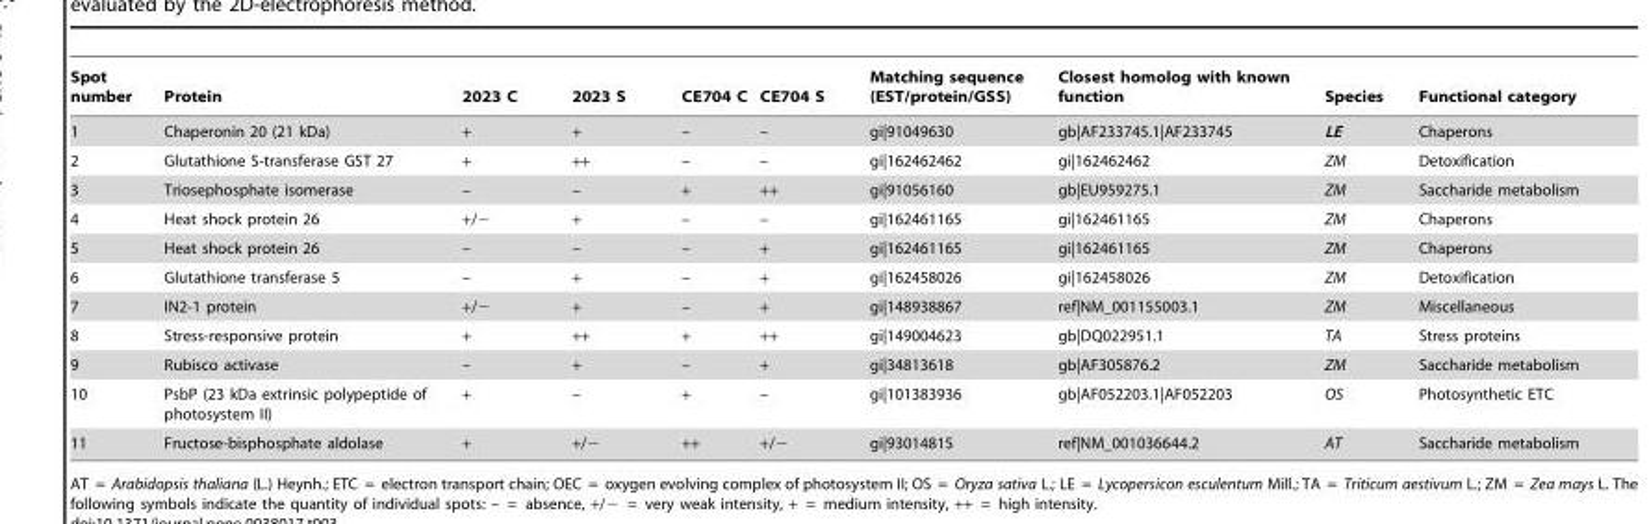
<table><thead><tr><td>Spot number</td><td>Protein</td><td>2023 C</td><td>2023 S</td><td>CE704 C</td><td>CE704 S</td><td>Matching sequence (EST/protein/GSS)</td><td>Closest homolog with known function</td><td>Species</td><td>Functional category</td></tr></thead><tbody><tr><td>1</td><td>Chaperonin 20 (21 kDa)</td><td>+</td><td>+</td><td>–</td><td>–</td><td>gi|91049630</td><td>gb|AF233745.1|AF233745</td><td>LE</td><td>Chaperons</td></tr><tr><td>2</td><td>Glutathione S-transferase GST 27</td><td>+</td><td>++</td><td>–</td><td>–</td><td>gi|162462462</td><td>gi|162462462</td><td>ZM</td><td>Detoxification</td></tr><tr><td>3</td><td>Triosephosphate isomerase</td><td>–</td><td>–</td><td>+</td><td>++</td><td>gi|91056160</td><td>gb|EU959275.1</td><td>ZM</td><td>Saccharide metabolism</td></tr><tr><td>4</td><td>Heat shock protein 26</td><td>+/−</td><td>+</td><td>–</td><td>–</td><td>gi|162461165</td><td>gi|162461165</td><td>ZM</td><td>Chaperons</td></tr><tr><td>5</td><td>Heat shock protein 26</td><td>–</td><td>–</td><td>–</td><td>+</td><td>gi|162461165</td><td>gi|162461165</td><td>ZM</td><td>Chaperons</td></tr><tr><td>6</td><td>Glutathione transferase 5</td><td>–</td><td>+</td><td>–</td><td>+</td><td>gi|162458026</td><td>gi|162458026</td><td>ZM</td><td>Detoxification</td></tr><tr><td>7</td><td>IN2-1 protein</td><td>+/−</td><td>+</td><td>–</td><td>+</td><td>gi|148938867</td><td>ref|NM_001155003.1</td><td>ZM</td><td>Miscellaneous</td></tr><tr><td>8</td><td>Stress-responsive protein</td><td>+</td><td>++</td><td>+</td><td>++</td><td>gi|149004623</td><td>gb|DQ022951.1</td><td>TA</td><td>Stress proteins</td></tr><tr><td>9</td><td>Rubisco activase</td><td>–</td><td>+</td><td>–</td><td>+</td><td>gi|34813618</td><td>gb|AF305876.2</td><td>ZM</td><td>Saccharide metabolism</td></tr><tr><td>10</td><td>PsbP (23 kDa extrinsic polypeptide of photosystem II)</td><td>+</td><td>–</td><td>+</td><td>–</td><td>gi|101383936</td><td>gb|AF052203.1|AF052203</td><td>OS</td><td>Photosynthetic ETC</td></tr><tr><td>11</td><td>Fructose-bisphosphate aldolase</td><td>+</td><td>+/−</td><td>++</td><td>+/−</td><td>gi|93014815</td><td>ref|NM_001036644.2</td><td>AT</td><td>Saccharide metabolism</td></tr></tbody></table>